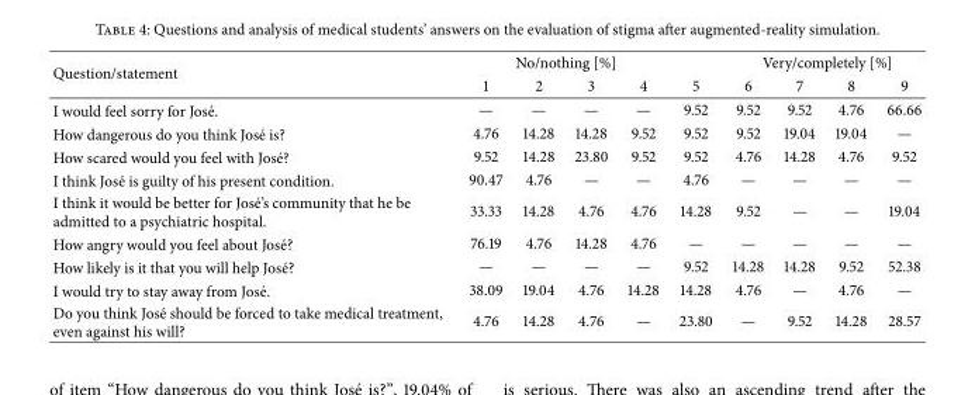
<table><thead><tr><td rowspan="2">Question/statement</td><td colspan="4">No/nothing [%]</td><td rowspan="2">5</td><td colspan="4">Very/completely [%]</td></tr><tr><td>1</td><td>2</td><td>3</td><td>4</td><td>6</td><td>7</td><td>8</td><td>9</td></tr></thead><tbody><tr><td>I would feel sorry for Jos´e.</td><td>—</td><td>—</td><td>—</td><td>—</td><td>9.52</td><td>9.52</td><td>9.52</td><td>4.76</td><td>66.66</td></tr><tr><td>How dangerous do you think Jos´e is?</td><td>4.76</td><td>14.28</td><td>14.28</td><td>9.52</td><td>9.52</td><td>9.52</td><td>19.04</td><td>19.04</td><td>—</td></tr><tr><td>How scared would you feel with Jos´e?</td><td>9.52</td><td>14.28</td><td>23.80</td><td>9.52</td><td>9.52</td><td>4.76</td><td>14.28</td><td>4.76</td><td>9.52</td></tr><tr><td>I think Jos´e is guilty of his present condition.</td><td>90.47</td><td>4.76</td><td>—</td><td>—</td><td>4.76</td><td>—</td><td>—</td><td>—</td><td>—</td></tr><tr><td>I think it would be better for Jos´e’s community that he be admitted to a psychiatric hospital.</td><td>33.33</td><td>14.28</td><td>4.76</td><td>4.76</td><td>14.28</td><td>9.52</td><td>—</td><td>—</td><td>19.04</td></tr><tr><td>How angry would you feel about Jos´e?</td><td>76.19</td><td>4.76</td><td>14.28</td><td>4.76</td><td>—</td><td>—</td><td>—</td><td>—</td><td>—</td></tr><tr><td>How likely is it that you will help Jos´e?</td><td>—</td><td>—</td><td>—</td><td>—</td><td>9.52</td><td>14.28</td><td>14.28</td><td>9.52</td><td>52.38</td></tr><tr><td>I would try to stay away from Jos´e.</td><td>38.09</td><td>19.04</td><td>4.76</td><td>14.28</td><td>14.28</td><td>4.76</td><td>—</td><td>4.76</td><td>—</td></tr><tr><td>Do you think Jos´e should be forced to take medical treatment, even against his will?</td><td>4.76</td><td>14.28</td><td>4.76</td><td>—</td><td>23.80</td><td>—</td><td>9.52</td><td>14.28</td><td>28.57</td></tr></tbody></table>